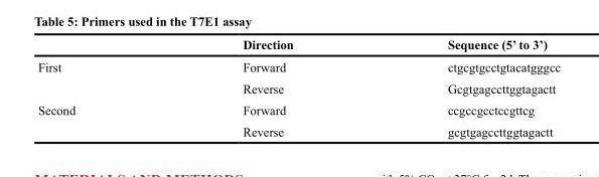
<table><thead><tr><td></td><td>Direction</td><td>Sequence (5’ to 3’)</td></tr></thead><tbody><tr><td rowspan="2">First</td><td>Forward</td><td>ctgcgtgcctgtacatgggcc</td></tr><tr><td>Reverse</td><td>Gcgtgagccttggtagactt</td></tr><tr><td rowspan="2">Second</td><td>Forward</td><td>ccgccgcctccgttcg</td></tr><tr><td>Reverse</td><td>gcgtgagccttggtagactt</td></tr></tbody></table>